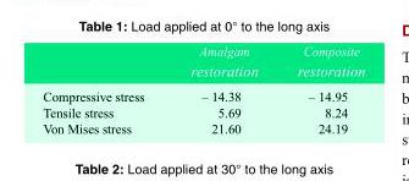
<table><thead><tr><td></td><td>Amalgam restoration</td><td>Composite restoration</td></tr></thead><tbody><tr><td>Compressive stress</td><td>– 14.38</td><td>– 14.95</td></tr><tr><td>Tensile stress</td><td>5.69</td><td>8.24</td></tr><tr><td>Von Mises stress</td><td>21.60</td><td>24.19</td></tr></tbody></table>